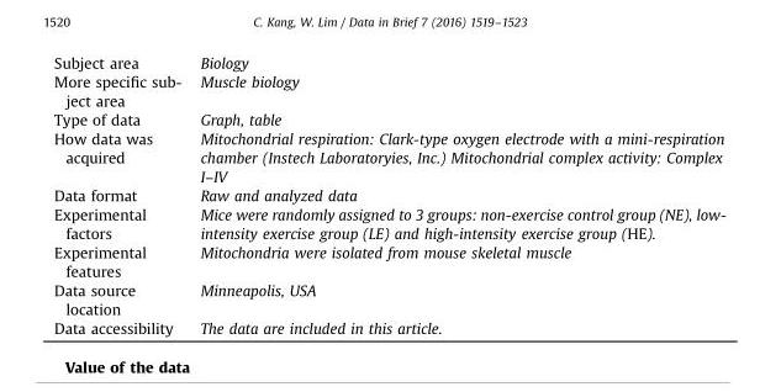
<table><tbody><tr><td>Subject area</td><td>Biology</td></tr><tr><td>More specific sub- ject area</td><td>Muscle biology</td></tr><tr><td>Type of data</td><td>Graph, table</td></tr><tr><td>How data was acquired</td><td>Mitochondrial respiration: Clark-type oxygen electrode with a mini-respiration chamber (Instech Laboratoryies, Inc.) Mitochondrial complex activity: Complex I–IV</td></tr><tr><td>Data format</td><td>Raw and analyzed data</td></tr><tr><td>Experimental factors</td><td>Mice were randomly assigned to 3 groups: non-exercise control group (NE), low- intensity exercise group (LE) and high-intensity exercise group (HE).</td></tr><tr><td>Experimental features</td><td>Mitochondria were isolated from mouse skeletal muscle</td></tr><tr><td>Data source location</td><td>Minneapolis, USA</td></tr><tr><td>Data accessibility</td><td>The data are included in this article.</td></tr></tbody></table>